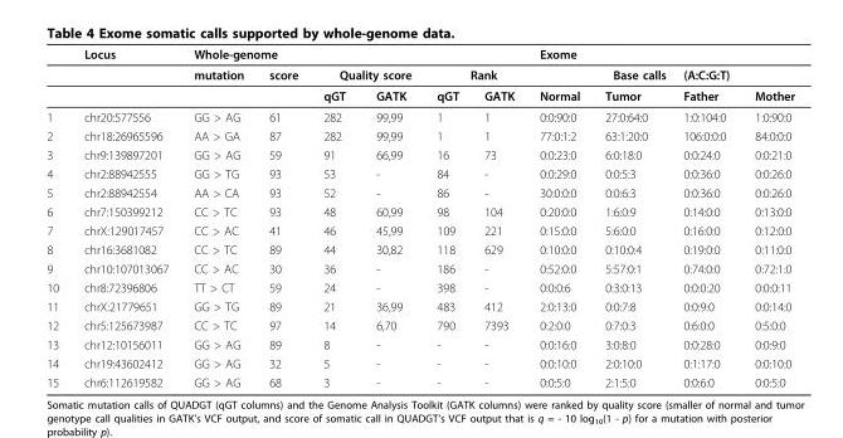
<table><thead><tr><td rowspan="2"></td><td rowspan="2">Locus</td><td colspan="2">Whole-genome</td><td></td><td></td><td></td><td></td><td rowspan="2">Exome</td><td rowspan="2">Base calls</td><td rowspan="2">(A:C:G:T)</td><td rowspan="2"></td></tr><tr><td>mutation</td><td>score</td><td colspan="2">Quality score</td><td colspan="2">Rank</td></tr></thead><tbody><tr><td></td><td></td><td></td><td></td><td>qGT</td><td>GATK</td><td>qGT</td><td>GATK</td><td>Normal</td><td>Tumor</td><td>Father</td><td>Mother</td></tr><tr><td>1</td><td>chr20:577556</td><td>GG &gt; AG</td><td>61</td><td>282</td><td>99,99</td><td>1</td><td>1</td><td>0:0:90:0</td><td>27:0:64:0</td><td>1:0:104:0</td><td>1:0:90:0</td></tr><tr><td>2</td><td>chr18:26965596</td><td>AA &gt; GA</td><td>87</td><td>282</td><td>99,99</td><td>1</td><td>1</td><td>77:0:1:2</td><td>63:1:20:0</td><td>106:0:0:0</td><td>84:0:0:0</td></tr><tr><td>3</td><td>chr9:139897201</td><td>GG &gt; AG</td><td>59</td><td>91</td><td>66,99</td><td>16</td><td>73</td><td>0:0:23:0</td><td>6:0:18:0</td><td>0:0:24:0</td><td>0:0:21:0</td></tr><tr><td>4</td><td>chr2:88942555</td><td>GG &gt; TG</td><td>93</td><td>53</td><td>-</td><td>84</td><td>-</td><td>0:0:29:0</td><td>0:0:5:3</td><td>0:0:36:0</td><td>0:0:26:0</td></tr><tr><td>5</td><td>chr2:88942554</td><td>AA &gt; CA</td><td>93</td><td>52</td><td>-</td><td>86</td><td>-</td><td>30:0:0:0</td><td>0:0:6:3</td><td>0:0:36:0</td><td>0:0:26:0</td></tr><tr><td>6</td><td>chr7:150399212</td><td>CC &gt; TC</td><td>93</td><td>48</td><td>60,99</td><td>98</td><td>104</td><td>0:20:0:0</td><td>1:6:0:9</td><td>0:14:0:0</td><td>0:13:0:0</td></tr><tr><td>7</td><td>chrX:129017457</td><td>CC &gt; AC</td><td>41</td><td>46</td><td>45,99</td><td>109</td><td>221</td><td>0:15:0:0</td><td>5:6:0:0</td><td>0:16:0:0</td><td>0:12:0:0</td></tr><tr><td>8</td><td>chr16:3681082</td><td>CC &gt; TC</td><td>89</td><td>44</td><td>30,82</td><td>118</td><td>629</td><td>0:10:0:0</td><td>0:10:0:4</td><td>0:19:0:0</td><td>0:11:0:0</td></tr><tr><td>9</td><td>chr10:107013067</td><td>CC &gt; AC</td><td>30</td><td>36</td><td>-</td><td>186</td><td>-</td><td>0:52:0:0</td><td>5:57:0:1</td><td>0:74:0:0</td><td>0:72:1:0</td></tr><tr><td>10</td><td>chr8:72396806</td><td>TT &gt; CT</td><td>59</td><td>24</td><td>-</td><td>398</td><td>-</td><td>0:0:0:6</td><td>0:3:0:13</td><td>0:0:0:20</td><td>0:0:0:11</td></tr><tr><td>11</td><td>chrX:21779651</td><td>GG &gt; TG</td><td>89</td><td>21</td><td>36,99</td><td>483</td><td>412</td><td>2:0:13:0</td><td>0:0:7:8</td><td>0:0:9:0</td><td>0:0:14:0</td></tr><tr><td>12</td><td>chr5:125673987</td><td>CC &gt; TC</td><td>97</td><td>14</td><td>6,70</td><td>790</td><td>7393</td><td>0:2:0:0</td><td>0:7:0:3</td><td>0:6:0:0</td><td>0:5:0:0</td></tr><tr><td>13</td><td>chr12:10156011</td><td>GG &gt; AG</td><td>89</td><td>8</td><td>-</td><td>-</td><td>-</td><td>0:0:16:0</td><td>3:0:8:0</td><td>0:0:28:0</td><td>0:0:9:0</td></tr><tr><td>14</td><td>chr19:43602412</td><td>GG &gt; AG</td><td>32</td><td>5</td><td>-</td><td>-</td><td>-</td><td>0:0:10:0</td><td>2:0:10:0</td><td>0:1:17:0</td><td>0:0:10:0</td></tr><tr><td>15</td><td>chr6:112619582</td><td>GG &gt; AG</td><td>68</td><td>3</td><td>-</td><td>-</td><td>-</td><td>0:0:5:0</td><td>2:1:5:0</td><td>0:0:6:0</td><td>0:0:5:0</td></tr></tbody></table>